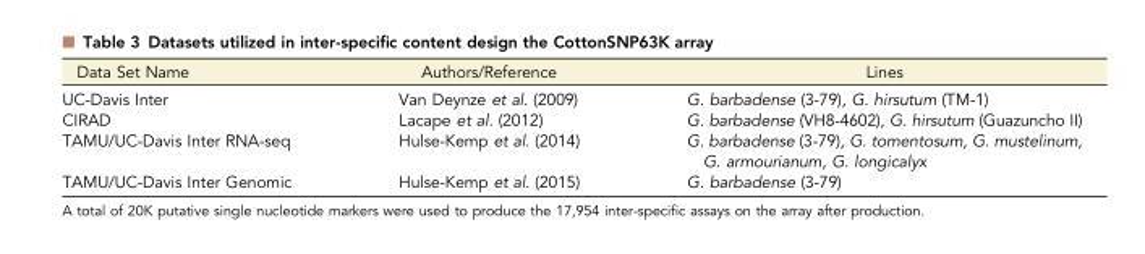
<table><thead><tr><td>Data Set Name</td><td>Authors/Reference</td><td>Lines</td></tr></thead><tbody><tr><td>UC-Davis Inter</td><td>Van Deynze et al. (2009)</td><td>G. barbadense (3-79), G. hirsutum (TM-1)</td></tr><tr><td>CIRAD</td><td>Lacape et al. (2012)</td><td>G. barbadense (VH8-4602), G. hirsutum (Guazuncho II)</td></tr><tr><td>TAMU/UC-Davis Inter RNA-seq</td><td>Hulse-Kemp et al. (2014)</td><td>G. barbadense (3-79), G. tomentosum, G. mustelinum, G. armourianum, G. longicalyx</td></tr><tr><td>TAMU/UC-Davis Inter Genomic</td><td>Hulse-Kemp et al. (2015)</td><td>G. barbadense (3-79)</td></tr></tbody></table>